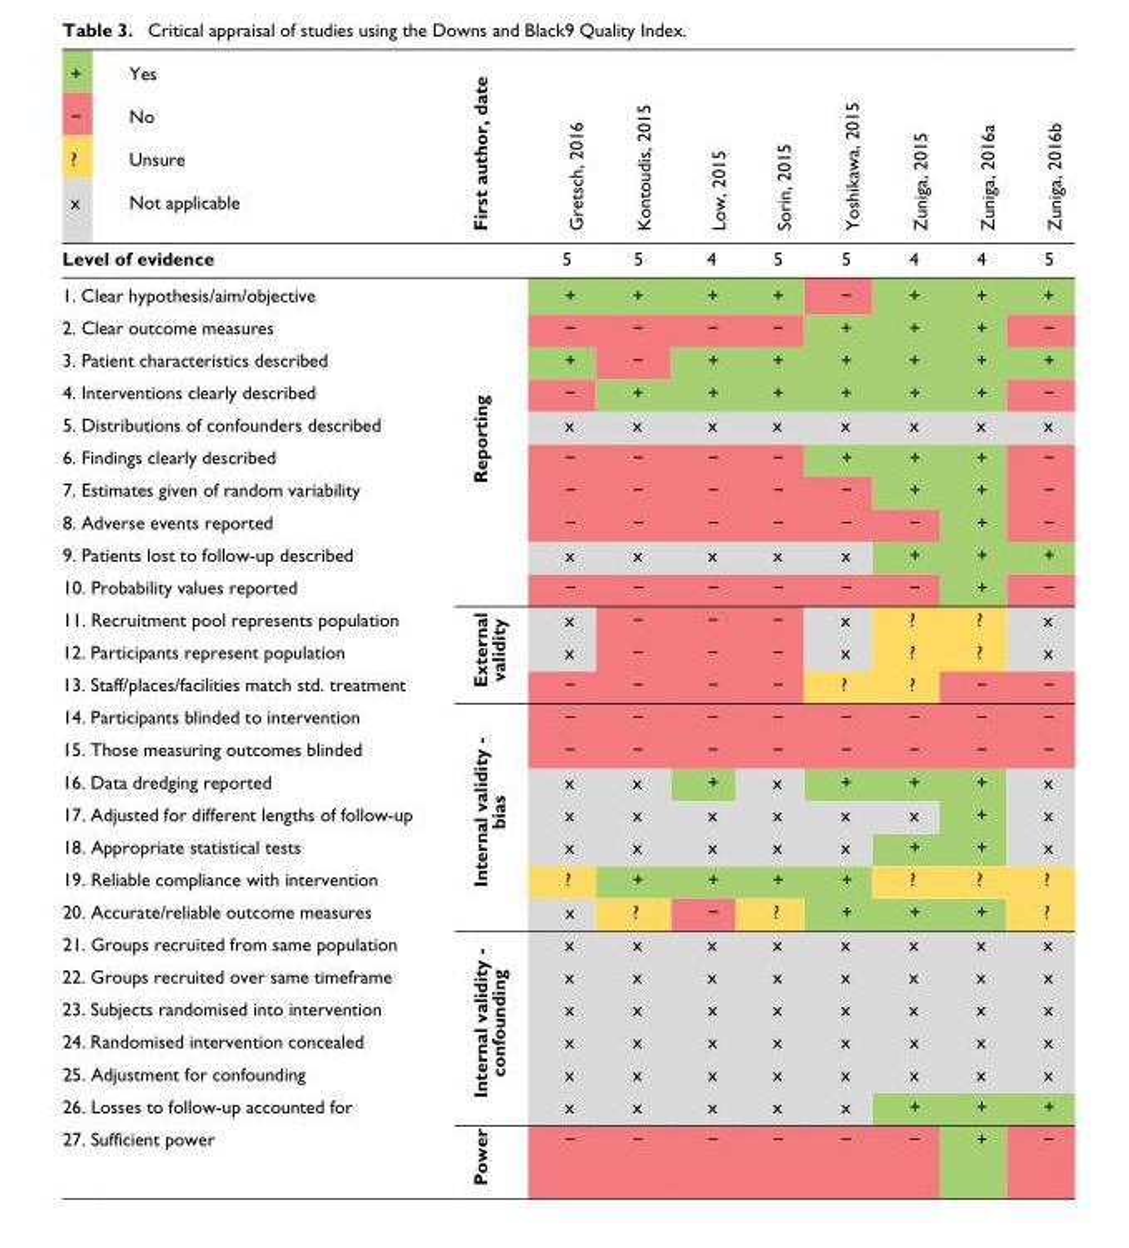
<table><thead><tr><td rowspan="4">+ − ? x</td><td rowspan="4">Yes No Unsure Not applicable</td><td rowspan="4">First author, date</td><td rowspan="5">Gretsch, 2016 5</td><td rowspan="5">Kontoudis, 2015 5</td><td rowspan="5">Low, 2015 4</td><td rowspan="5">Sorin, 2015 5</td><td rowspan="5">Yoshikawa, 2015 5</td><td rowspan="5">Zuniga, 2015 4</td><td rowspan="5">Zuniga, 2016a 4</td><td rowspan="5">Zuniga, 2016b 5</td></tr><tr></tr><tr></tr><tr></tr><tr><td colspan="3">Level of evidence</td></tr></thead><tbody><tr><td colspan="2">1. Clear hypothesis/aim/objective</td><td rowspan="10">Reporting</td><td>+</td><td>+</td><td>+</td><td>+</td><td>−</td><td>+</td><td>+</td><td>+</td></tr><tr><td colspan="2">2. Clear outcome measures</td><td>−</td><td>−</td><td>−</td><td>−</td><td>+</td><td>+</td><td>+</td><td>−</td></tr><tr><td colspan="2">3. Patient characteristics described</td><td>+</td><td>−</td><td>+</td><td>+</td><td>+</td><td>+</td><td>+</td><td>+</td></tr><tr><td colspan="2">4. Interventions clearly described</td><td>−</td><td>+</td><td>+</td><td>+</td><td>+</td><td>+</td><td>+</td><td>−</td></tr><tr><td colspan="2">5. Distributions of confounders described</td><td>x</td><td>x</td><td>x</td><td>x</td><td>x</td><td>x</td><td>x</td><td>x</td></tr><tr><td colspan="2">6. Findings clearly described</td><td>−</td><td>−</td><td>−</td><td>−</td><td>+</td><td>+</td><td>+</td><td>−</td></tr><tr><td colspan="2">7. Estimates given of random variability</td><td>−</td><td>−</td><td>−</td><td>−</td><td>−</td><td>+</td><td>+</td><td>−</td></tr><tr><td colspan="2">8. Adverse events reported</td><td>−</td><td>−</td><td>−</td><td>−</td><td>−</td><td>−</td><td>+</td><td>−</td></tr><tr><td colspan="2">9. Patients lost to follow-up described</td><td>x</td><td>x</td><td>x</td><td>x</td><td>x</td><td>+</td><td>+</td><td>+</td></tr><tr><td colspan="2">10. Probability values reported</td><td>−</td><td>−</td><td>−</td><td>−</td><td>−</td><td>−</td><td>+</td><td>−</td></tr><tr><td colspan="2">11. Recruitment pool represents population</td><td rowspan="3">External validity</td><td>x</td><td>−</td><td>−</td><td>−</td><td>x</td><td>?</td><td>?</td><td>x</td></tr><tr><td colspan="2">12. Participants represent population</td><td>x</td><td>−</td><td>−</td><td>−</td><td>x</td><td>?</td><td>?</td><td>x</td></tr><tr><td colspan="2">13. Staff/places/facilities match std. treatment</td><td>−</td><td>−</td><td>−</td><td>−</td><td>?</td><td>?</td><td>−</td><td>−</td></tr><tr><td colspan="2">14. Participants blinded to intervention</td><td rowspan="7">Internal validity - bias</td><td>−</td><td>−</td><td>−</td><td>−</td><td>−</td><td>−</td><td>−</td><td>−</td></tr><tr><td colspan="2">15. Those measuring outcomes blinded</td><td>−</td><td>−</td><td>−</td><td>−</td><td>−</td><td>−</td><td>−</td><td>−</td></tr><tr><td colspan="2">16. Data dredging reported</td><td>x</td><td>x</td><td>+</td><td>x</td><td>+</td><td>+</td><td>+</td><td>x</td></tr><tr><td colspan="2">17. Adjusted for different lengths of follow-up</td><td>x</td><td>x</td><td>x</td><td>x</td><td>x</td><td>x</td><td>+</td><td>x</td></tr><tr><td colspan="2">18. Appropriate statistical tests</td><td>x</td><td>x</td><td>x</td><td>x</td><td>x</td><td>+</td><td>+</td><td>x</td></tr><tr><td colspan="2">19. Reliable compliance with intervention</td><td>?</td><td>+</td><td>+</td><td>+</td><td>+</td><td>?</td><td>?</td><td>?</td></tr><tr><td colspan="2">20. Accurate/reliable outcome measures</td><td>x</td><td>?</td><td>−</td><td>?</td><td>+</td><td>+</td><td>+</td><td>?</td></tr><tr><td colspan="2">21. Groups recruited from same population</td><td rowspan="6">Internal validity - confounding</td><td>x</td><td>x</td><td>x</td><td>x</td><td>x</td><td>x</td><td>x</td><td>x</td></tr><tr><td colspan="2">22. Groups recruited over same timeframe</td><td>x</td><td>x</td><td>x</td><td>x</td><td>x</td><td>x</td><td>x</td><td>x</td></tr><tr><td colspan="2">23. Subjects randomised into intervention</td><td>x</td><td>x</td><td>x</td><td>x</td><td>x</td><td>x</td><td>x</td><td>x</td></tr><tr><td colspan="2">24. Randomised intervention concealed</td><td>x</td><td>x</td><td>x</td><td>x</td><td>x</td><td>x</td><td>x</td><td>x</td></tr><tr><td colspan="2">25. Adjustment for confounding</td><td>x</td><td>x</td><td>x</td><td>x</td><td>x</td><td>x</td><td>x</td><td>x</td></tr><tr><td colspan="2">26. Losses to follow-up accounted for</td><td>x</td><td>x</td><td>x</td><td>x</td><td>x</td><td>+</td><td>+</td><td>+</td></tr><tr><td colspan="2">27. Sufficient power</td><td>Power</td><td>−</td><td>−</td><td>−</td><td>−</td><td>−</td><td>−</td><td>+</td><td>−</td></tr></tbody></table>